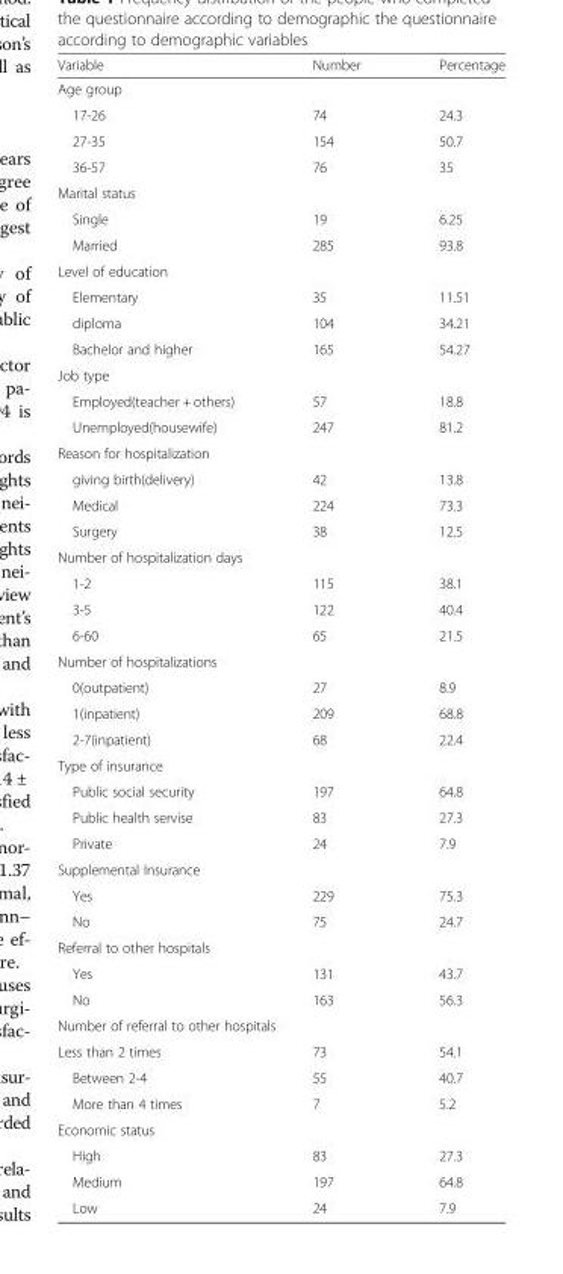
<table><thead><tr><td>Variable</td><td>Number</td><td>Percentage</td></tr></thead><tbody><tr><td colspan="3">Age group</td></tr><tr><td>17-26</td><td>74</td><td>24.3</td></tr><tr><td>27-35</td><td>154</td><td>50.7</td></tr><tr><td>36-57</td><td>76</td><td>35</td></tr><tr><td colspan="3">Marital status</td></tr><tr><td>Single</td><td>19</td><td>6.25</td></tr><tr><td>Married</td><td>285</td><td>93.8</td></tr><tr><td colspan="3">Level of education</td></tr><tr><td>Elementary</td><td>35</td><td>11.51</td></tr><tr><td>diploma</td><td>104</td><td>34.21</td></tr><tr><td>Bachelor and higher</td><td>165</td><td>54.27</td></tr><tr><td colspan="3">Job type</td></tr><tr><td>Employed(teacher + others)</td><td>57</td><td>18.8</td></tr><tr><td>Unemployed(housewife)</td><td>247</td><td>81.2</td></tr><tr><td colspan="3">Reason for hospitalization</td></tr><tr><td>giving birth(delivery)</td><td>42</td><td>13.8</td></tr><tr><td>Medical</td><td>224</td><td>73.3</td></tr><tr><td>Surgery</td><td>38</td><td>12.5</td></tr><tr><td colspan="3">Number of hospitalization days</td></tr><tr><td>1-2</td><td>115</td><td>38.1</td></tr><tr><td>3-5</td><td>122</td><td>40.4</td></tr><tr><td>6-60</td><td>65</td><td>21.5</td></tr><tr><td colspan="3">Number of hospitalizations</td></tr><tr><td>0(outpatient)</td><td>27</td><td>8.9</td></tr><tr><td>1(inpatient)</td><td>209</td><td>68.8</td></tr><tr><td>2-7(inpatient)</td><td>68</td><td>22.4</td></tr><tr><td colspan="3">Type of insurance</td></tr><tr><td>Public social security</td><td>197</td><td>64.8</td></tr><tr><td>Public health servise</td><td>83</td><td>27.3</td></tr><tr><td>Private</td><td>24</td><td>7.9</td></tr><tr><td colspan="3">Supplemental Insurance</td></tr><tr><td>Yes</td><td>229</td><td>75.3</td></tr><tr><td>No</td><td>75</td><td>24.7</td></tr><tr><td colspan="3">Referral to other hospitals</td></tr><tr><td>Yes</td><td>131</td><td>43.7</td></tr><tr><td>No</td><td>163</td><td>56.3</td></tr><tr><td colspan="3">Number of referral to other hospitals</td></tr><tr><td>Less than 2 times</td><td>73</td><td>54.1</td></tr><tr><td>Between 2-4</td><td>55</td><td>40.7</td></tr><tr><td>More than 4 times</td><td>7</td><td>5.2</td></tr><tr><td colspan="3">Economic status</td></tr><tr><td>High</td><td>83</td><td>27.3</td></tr><tr><td>Medium</td><td>197</td><td>64.8</td></tr><tr><td>Low</td><td>24</td><td>7.9</td></tr></tbody></table>